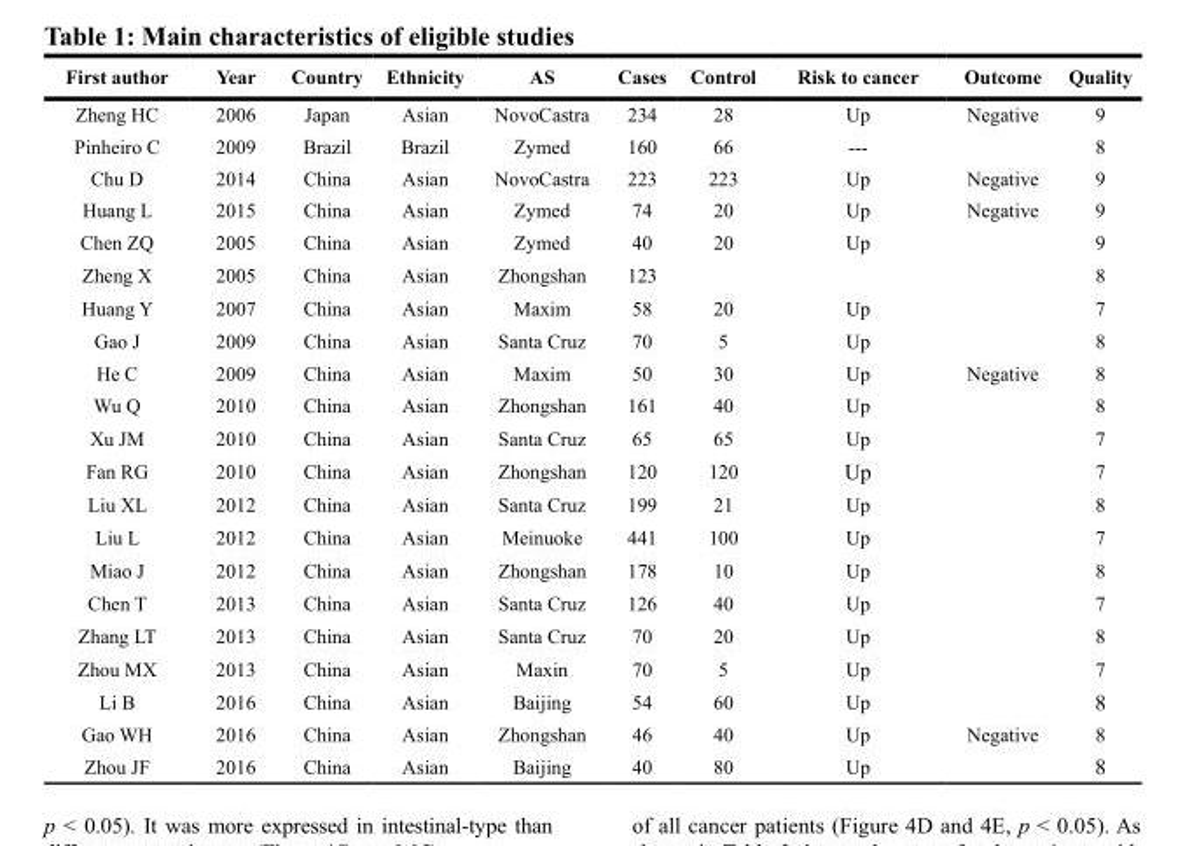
<table><thead><tr><td>First author</td><td>Year</td><td>Country</td><td>Ethnicity</td><td>AS</td><td>Cases</td><td>Control</td><td>Risk to cancer</td><td>Outcome</td><td>Quality</td></tr></thead><tbody><tr><td>Zheng HC</td><td>2006</td><td>Japan</td><td>Asian</td><td>NovoCastra</td><td>234</td><td>28</td><td>Up</td><td>Negative</td><td>9</td></tr><tr><td>Pinheiro C</td><td>2009</td><td>Brazil</td><td>Brazil</td><td>Zymed</td><td>160</td><td>66</td><td>---</td><td></td><td>8</td></tr><tr><td>Chu D</td><td>2014</td><td>China</td><td>Asian</td><td>NovoCastra</td><td>223</td><td>223</td><td>Up</td><td>Negative</td><td>9</td></tr><tr><td>Huang L</td><td>2015</td><td>China</td><td>Asian</td><td>Zymed</td><td>74</td><td>20</td><td>Up</td><td>Negative</td><td>9</td></tr><tr><td>Chen ZQ</td><td>2005</td><td>China</td><td>Asian</td><td>Zymed</td><td>40</td><td>20</td><td>Up</td><td></td><td>9</td></tr><tr><td>Zheng X</td><td>2005</td><td>China</td><td>Asian</td><td>Zhongshan</td><td>123</td><td></td><td></td><td></td><td>8</td></tr><tr><td>Huang Y</td><td>2007</td><td>China</td><td>Asian</td><td>Maxim</td><td>58</td><td>20</td><td>Up</td><td></td><td>7</td></tr><tr><td>Gao J</td><td>2009</td><td>China</td><td>Asian</td><td>Santa Cruz</td><td>70</td><td>5</td><td>Up</td><td></td><td>8</td></tr><tr><td>He C</td><td>2009</td><td>China</td><td>Asian</td><td>Maxim</td><td>50</td><td>30</td><td>Up</td><td>Negative</td><td>8</td></tr><tr><td>Wu Q</td><td>2010</td><td>China</td><td>Asian</td><td>Zhongshan</td><td>161</td><td>40</td><td>Up</td><td></td><td>8</td></tr><tr><td>Xu JM</td><td>2010</td><td>China</td><td>Asian</td><td>Santa Cruz</td><td>65</td><td>65</td><td>Up</td><td></td><td>7</td></tr><tr><td>Fan RG</td><td>2010</td><td>China</td><td>Asian</td><td>Zhongshan</td><td>120</td><td>120</td><td>Up</td><td></td><td>7</td></tr><tr><td>Liu XL</td><td>2012</td><td>China</td><td>Asian</td><td>Santa Cruz</td><td>199</td><td>21</td><td>Up</td><td></td><td>8</td></tr><tr><td>Liu L</td><td>2012</td><td>China</td><td>Asian</td><td>Meinuoke</td><td>441</td><td>100</td><td>Up</td><td></td><td>7</td></tr><tr><td>Miao J</td><td>2012</td><td>China</td><td>Asian</td><td>Zhongshan</td><td>178</td><td>10</td><td>Up</td><td></td><td>8</td></tr><tr><td>Chen T</td><td>2013</td><td>China</td><td>Asian</td><td>Santa Cruz</td><td>126</td><td>40</td><td>Up</td><td></td><td>7</td></tr><tr><td>Zhang LT</td><td>2013</td><td>China</td><td>Asian</td><td>Santa Cruz</td><td>70</td><td>20</td><td>Up</td><td></td><td>8</td></tr><tr><td>Zhou MX</td><td>2013</td><td>China</td><td>Asian</td><td>Maxin</td><td>70</td><td>5</td><td>Up</td><td></td><td>7</td></tr><tr><td>Li B</td><td>2016</td><td>China</td><td>Asian</td><td>Baijing</td><td>54</td><td>60</td><td>Up</td><td></td><td>8</td></tr><tr><td>Gao WH</td><td>2016</td><td>China</td><td>Asian</td><td>Zhongshan</td><td>46</td><td>40</td><td>Up</td><td>Negative</td><td>8</td></tr><tr><td>Zhou JF</td><td>2016</td><td>China</td><td>Asian</td><td>Baijing</td><td>40</td><td>80</td><td>Up</td><td></td><td>8</td></tr></tbody></table>